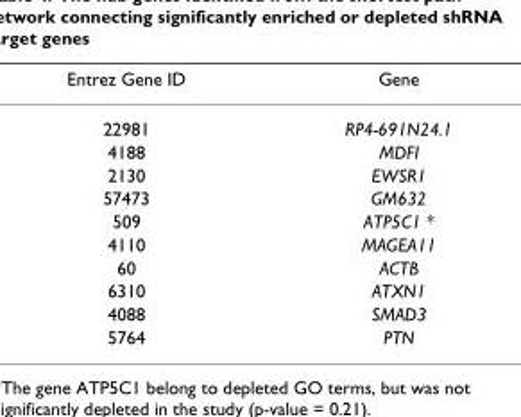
<table><thead><tr><td>Entrez Gene ID</td><td>Gene</td></tr></thead><tbody><tr><td>22981</td><td>RP4-691N24.1</td></tr><tr><td>4188</td><td>MDFI</td></tr><tr><td>2130</td><td>EWSR1</td></tr><tr><td>57473</td><td>GM632</td></tr><tr><td>509</td><td>ATP5C1 *</td></tr><tr><td>4110</td><td>MAGEA11</td></tr><tr><td>60</td><td>ACTB</td></tr><tr><td>6310</td><td>ATXN1</td></tr><tr><td>4088</td><td>SMAD3</td></tr><tr><td>5764</td><td>PTN</td></tr></tbody></table>